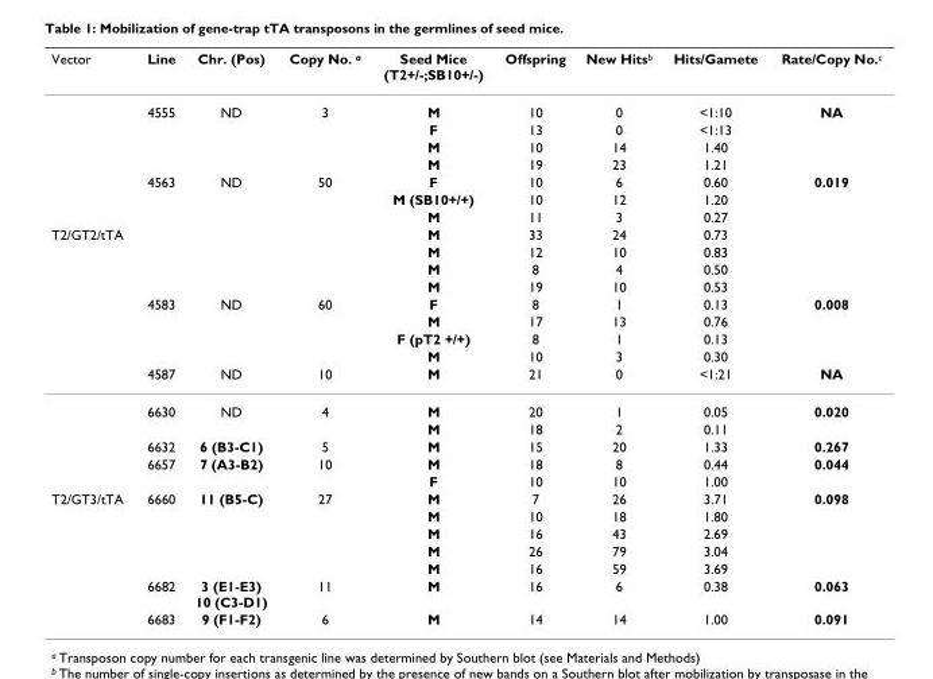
<table><thead><tr><td>Vector</td><td>Line</td><td>Chr. (Pos)</td><td>Copy No. a</td><td>Seed Mice (T2+/-;SB10+/-)</td><td>Offspring</td><td>New Hitsb</td><td>Hits/Gamete</td><td>Rate/Copy No.c</td></tr></thead><tbody><tr><td></td><td>4555</td><td>ND</td><td>3</td><td>M</td><td>10</td><td>0</td><td>&lt;1:10</td><td>NA</td></tr><tr><td></td><td></td><td></td><td></td><td>F</td><td>13</td><td>0</td><td>&lt;1:13</td><td></td></tr><tr><td></td><td></td><td></td><td></td><td>M</td><td>10</td><td>14</td><td>1.40</td><td></td></tr><tr><td></td><td></td><td></td><td></td><td>M</td><td>19</td><td>23</td><td>1.21</td><td></td></tr><tr><td></td><td>4563</td><td>ND</td><td>50</td><td>F</td><td>10</td><td>6</td><td>0.60</td><td>0.019</td></tr><tr><td></td><td></td><td></td><td></td><td>M (SB10+/+)</td><td>10</td><td>12</td><td>1.20</td><td></td></tr><tr><td></td><td></td><td></td><td></td><td>M</td><td>11</td><td>3</td><td>0.27</td><td></td></tr><tr><td rowspan="14">T2/GT2/tTA</td><td></td><td></td><td></td><td>M</td><td>33</td><td>24</td><td>0.73</td><td></td></tr><tr><td></td><td></td><td></td><td>M</td><td>12</td><td>10</td><td>0.83</td><td></td></tr><tr><td></td><td></td><td></td><td>M</td><td>8</td><td>4</td><td>0.50</td><td></td></tr><tr><td></td><td></td><td></td><td>M</td><td>19</td><td>10</td><td>0.53</td><td></td></tr><tr><td>4583</td><td>ND</td><td>60</td><td>F</td><td>8</td><td>1</td><td>0.13</td><td>0.008</td></tr><tr><td></td><td></td><td></td><td>M</td><td>17</td><td>13</td><td>0.76</td><td></td></tr><tr><td></td><td></td><td></td><td>F (pT2 +/+)</td><td>8</td><td>1</td><td>0.13</td><td></td></tr><tr><td></td><td></td><td></td><td>M</td><td>10</td><td>3</td><td>0.30</td><td></td></tr><tr><td>4587</td><td>ND</td><td>10</td><td>M</td><td>21</td><td>0</td><td>&lt;1:21</td><td>NA</td></tr><tr><td>6630</td><td>ND</td><td>4</td><td>M</td><td>20</td><td>1</td><td>0.05</td><td>0.020</td></tr><tr><td></td><td></td><td></td><td>M</td><td>18</td><td>2</td><td>0.11</td><td></td></tr><tr><td>6632</td><td>6 (B3-C1)</td><td>5</td><td>M</td><td>15</td><td>20</td><td>1.33</td><td>0.267</td></tr><tr><td>6657</td><td>7 (A3-B2)</td><td>10</td><td>M</td><td>18</td><td>8</td><td>0.44</td><td>0.044</td></tr><tr><td></td><td></td><td></td><td>F</td><td>10</td><td>10</td><td>1.00</td><td></td></tr><tr><td rowspan="7">T2/GT3/tTA</td><td>6660</td><td>11 (B5-C)</td><td>27</td><td>M</td><td>7</td><td>26</td><td>3.71</td><td>0.098</td></tr><tr><td></td><td></td><td></td><td>M</td><td>10</td><td>18</td><td>1.80</td><td></td></tr><tr><td></td><td></td><td></td><td>M</td><td>16</td><td>43</td><td>2.69</td><td></td></tr><tr><td></td><td></td><td></td><td>M</td><td>26</td><td>79</td><td>3.04</td><td></td></tr><tr><td></td><td></td><td></td><td>M</td><td>16</td><td>59</td><td>3.69</td><td></td></tr><tr><td>6682</td><td>3 (E1-E3) 10 (C3-D1)</td><td>11</td><td>M</td><td>16</td><td>6</td><td>0.38</td><td>0.063</td></tr><tr><td>6683</td><td>9 (F1-F2)</td><td>6</td><td>M</td><td>14</td><td>14</td><td>1.00</td><td>0.091</td></tr></tbody></table>